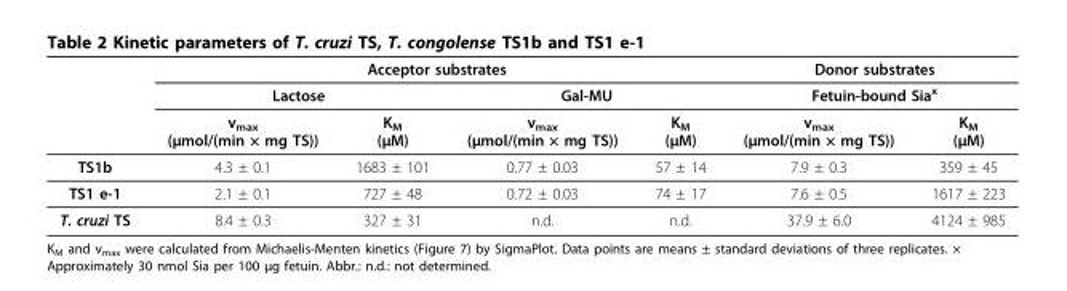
<table><thead><tr><td rowspan="3"></td><td colspan="4">Acceptor substrates</td><td rowspan="2" colspan="2">Donor substrates Fetuin-bound Sia<sup>x</sup></td></tr><tr><td colspan="2">Lactose</td><td colspan="2">Gal-MU</td></tr><tr><td>v<sub>max</sub> (μmol/(min × mg TS))</td><td>K<sub>M</sub> (μM)</td><td>v<sub>max</sub> (μmol/(min × mg TS))</td><td>K<sub>M</sub> (μM)</td><td>v<sub>max</sub> (μmol/(min × mg TS))</td><td>K<sub>M</sub> (μM)</td></tr></thead><tbody><tr><td>TS1b</td><td>4.3 ± 0.1</td><td>1683 ± 101</td><td>0.77 ± 0.03</td><td>57 ± 14</td><td>7.9 ± 0.3</td><td>359 ± 45</td></tr><tr><td>TS1 e-1</td><td>2.1 ± 0.1</td><td>727 ± 48</td><td>0.72 ± 0.03</td><td>74 ± 17</td><td>7.6 ± 0.5</td><td>1617 ± 223</td></tr><tr><td>T. cruzi TS</td><td>8.4 ± 0.3</td><td>327 ± 31</td><td>n.d.</td><td>n.d.</td><td>37.9 ± 6.0</td><td>4124 ± 985</td></tr></tbody></table>